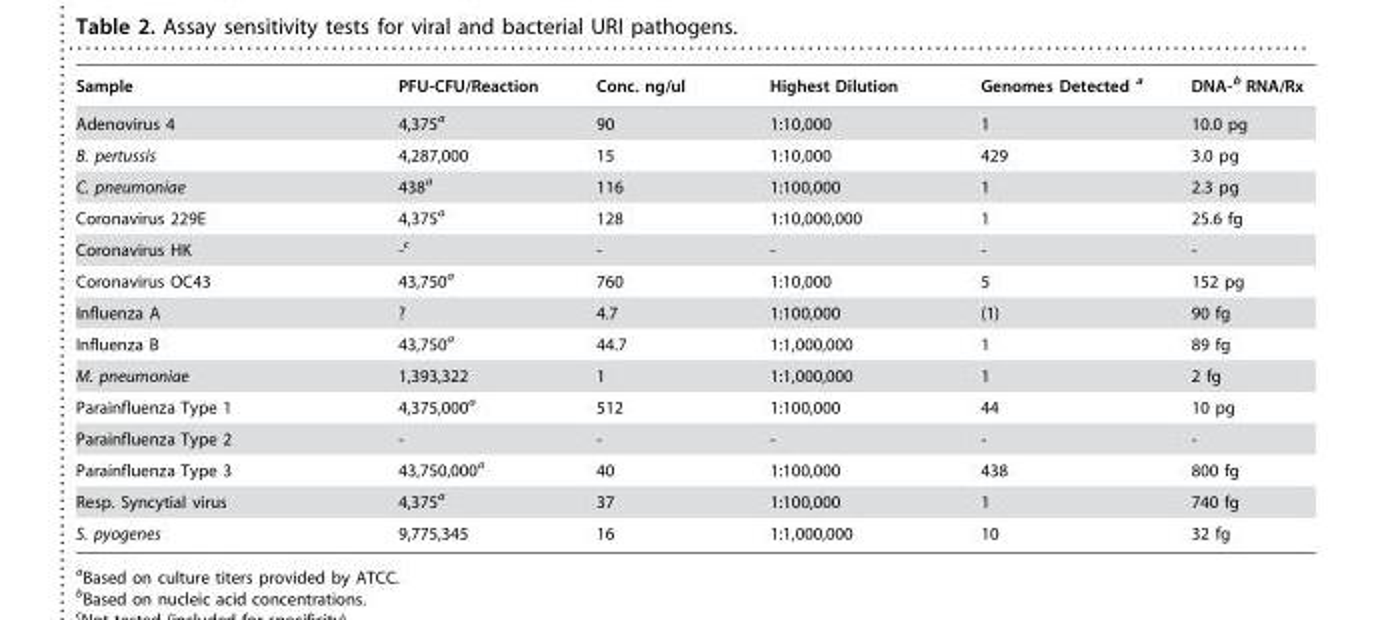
<table><thead><tr><td>Sample</td><td>PFU-CFU/Reaction</td><td>Conc. ng/ul</td><td>Highest Dilution</td><td>Genomes Detected a</td><td>DNA-b RNA/Rx</td></tr></thead><tbody><tr><td>Adenovirus 4</td><td>4,375<sup>a</sup></td><td>90</td><td>1:10,000</td><td>1</td><td>10.0 pg</td></tr><tr><td>B. pertussis</td><td>4,287,000</td><td>15</td><td>1:10,000</td><td>429</td><td>3.0 pg</td></tr><tr><td>C. pneumoniae</td><td>438<sup>a</sup></td><td>116</td><td>1:100,000</td><td>1</td><td>2.3 pg</td></tr><tr><td>Coronavirus 229E</td><td>4,375<sup>a</sup></td><td>128</td><td>1:10,000,000</td><td>1</td><td>25.6 fg</td></tr><tr><td>Coronavirus HK</td><td>-c</td><td>-</td><td>-</td><td>-</td><td>-</td></tr><tr><td>Coronavirus OC43</td><td>43,750<sup>a</sup></td><td>760</td><td>1:10,000</td><td>5</td><td>152 pg</td></tr><tr><td>Influenza A</td><td>?</td><td>4.7</td><td>1:100,000</td><td>(1)</td><td>90 fg</td></tr><tr><td>Influenza B</td><td>43,750<sup>a</sup></td><td>44.7</td><td>1:1,000,000</td><td>1</td><td>89 fg</td></tr><tr><td>M. pneumoniae</td><td>1,393,322</td><td>1</td><td>1:1,000,000</td><td>1</td><td>2 fg</td></tr><tr><td>Parainfluenza Type 1</td><td>4,375,000<sup>a</sup></td><td>512</td><td>1:100,000</td><td>44</td><td>10 pg</td></tr><tr><td>Parainfluenza Type 2</td><td>-</td><td>-</td><td>-</td><td>-</td><td>-</td></tr><tr><td>Parainfluenza Type 3</td><td>43,750,000<sup>a</sup></td><td>40</td><td>1:100,000</td><td>438</td><td>800 fg</td></tr><tr><td>Resp. Syncytial virus</td><td>4,375<sup>a</sup></td><td>37</td><td>1:100,000</td><td>1</td><td>740 fg</td></tr><tr><td>S. pyogenes</td><td>9,775,345</td><td>16</td><td>1:1,000,000</td><td>10</td><td>32 fg</td></tr></tbody></table>